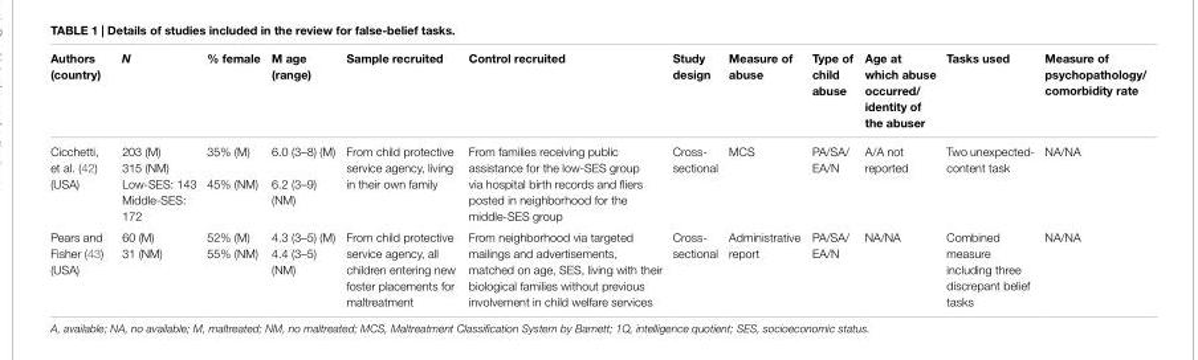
<table><thead><tr><td>Authors (country)</td><td>N</td><td>% female</td><td>M age (range)</td><td>Sample recruited</td><td>Control recruited</td><td>Study design</td><td>Measure of abuse</td><td>Type of child abuse</td><td>Age at which abuse occurred/ identity of the abuser</td><td>Tasks used</td><td>Measure of psychopathology/ comorbidity rate</td></tr></thead><tbody><tr><td rowspan="4">Cicchetti, et al. (42) (USA)</td><td>203 (M)</td><td rowspan="2">35% (M)</td><td rowspan="2">6.0 (3–8) (M)</td><td rowspan="4">From child protective service agency, living in their own family</td><td rowspan="4">From families receiving public assistance for the low-SES group via hospital birth records and fliers posted in neighborhood for the middle-SES group</td><td rowspan="4">Cross- sectional</td><td rowspan="4">MCS</td><td rowspan="4">PA/SA/ EA/N</td><td rowspan="4">A/A not reported</td><td rowspan="4">Two unexpected- content task</td><td rowspan="4">NA/NA</td></tr><tr><td>315 (NM)</td></tr><tr><td>Low-SES: 143</td><td rowspan="2">45% (NM)</td><td rowspan="2">6.2 (3–9) (NM)</td></tr><tr><td>Middle-SES: 172</td></tr><tr><td rowspan="2">Pears and Fisher (43) (USA)</td><td>60 (M)</td><td>52% (M)</td><td>4.3 (3–5) (M)</td><td rowspan="2">From child protective service agency, all children entering new foster placements for maltreatment</td><td rowspan="2">From neighborhood via targeted mailings and advertisements, matched on age, SES, living with their biological families without previous involvement in child welfare services</td><td rowspan="2">Cross- sectional</td><td rowspan="2">Administrative report</td><td rowspan="2">PA/SA/ EA/N</td><td rowspan="2">NA/NA</td><td rowspan="2">Combined measure including three discrepant belief tasks</td><td rowspan="2">NA/NA</td></tr><tr><td>31 (NM)</td><td>55% (NM)</td><td>4.4 (3–5) (NM)</td></tr></tbody></table>